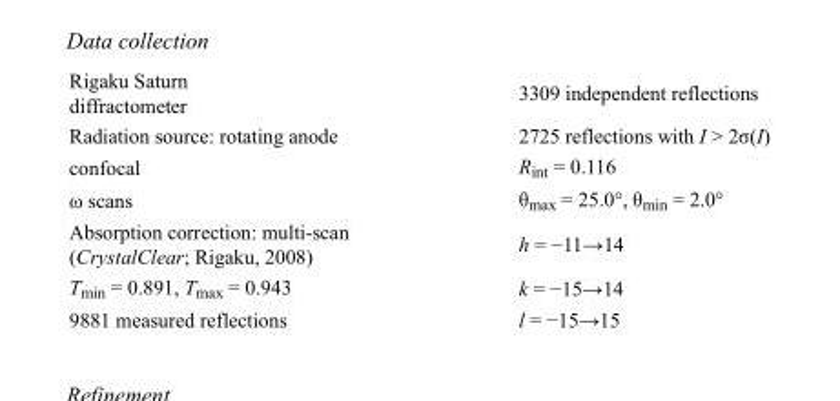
<table><tbody><tr><td>Rigaku Saturn diffractometer</td><td>3309 independent reflections</td></tr><tr><td>Radiation source: rotating anode</td><td>2725 reflections with I &gt; 2σ(I)</td></tr><tr><td>confocal</td><td>R<sub>int</sub> = 0.116</td></tr><tr><td>ω scans</td><td>θ<sub>max</sub> = 25.0°, θ<sub>min</sub> = 2.0°</td></tr><tr><td>Absorption correction: multi-scan (CrystalClear; Rigaku, 2008)</td><td>h = −11→14</td></tr><tr><td>T<sub>min</sub> = 0.891, T<sub>max</sub> = 0.943</td><td>k = −15→14</td></tr><tr><td>9881 measured reflections</td><td>l = −15→15</td></tr></tbody></table>